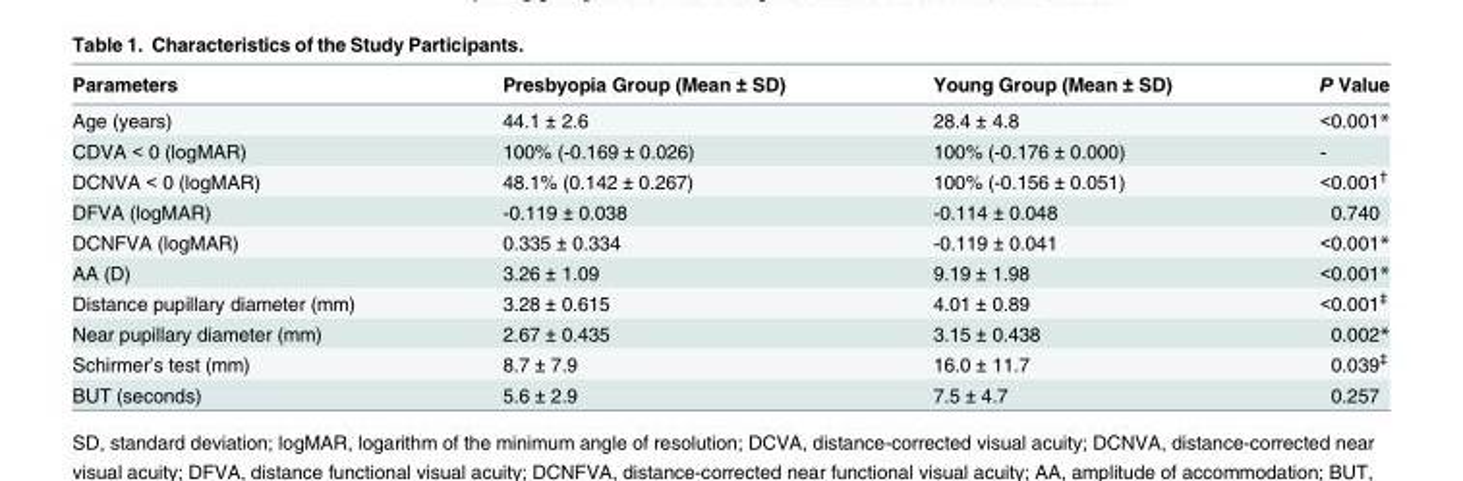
<table><thead><tr><td>Parameters</td><td>Presbyopia Group (Mean ± SD)</td><td>Young Group (Mean ± SD)</td><td>P Value</td></tr></thead><tbody><tr><td>Age (years)</td><td>44.1 ± 2.6</td><td>28.4 ± 4.8</td><td>&lt;0.001*</td></tr><tr><td>CDVA &lt; 0 (logMAR)</td><td>100% (-0.169 ± 0.026)</td><td>100% (-0.176 ± 0.000)</td><td>-</td></tr><tr><td>DCNVA &lt; 0 (logMAR)</td><td>48.1% (0.142 ± 0.267)</td><td>100% (-0.156 ± 0.051)</td><td>&lt;0.001<sup>†</sup></td></tr><tr><td>DFVA (logMAR)</td><td>-0.119 ± 0.038</td><td>-0.114 ± 0.048</td><td>0.740</td></tr><tr><td>DCNFVA (logMAR)</td><td>0.335 ± 0.334</td><td>-0.119 ± 0.041</td><td>&lt;0.001*</td></tr><tr><td>AA (D)</td><td>3.26 ± 1.09</td><td>9.19 ± 1.98</td><td>&lt;0.001*</td></tr><tr><td>Distance pupillary diameter (mm)</td><td>3.28 ± 0.615</td><td>4.01 ± 0.89</td><td>&lt;0.001<sup>‡</sup></td></tr><tr><td>Near pupillary diameter (mm)</td><td>2.67 ± 0.435</td><td>3.15 ± 0.438</td><td>0.002*</td></tr><tr><td>Schirmer’s test (mm)</td><td>8.7 ± 7.9</td><td>16.0 ± 11.7</td><td>0.039<sup>‡</sup></td></tr><tr><td>BUT (seconds)</td><td>5.6 ± 2.9</td><td>7.5 ± 4.7</td><td>0.257</td></tr></tbody></table>